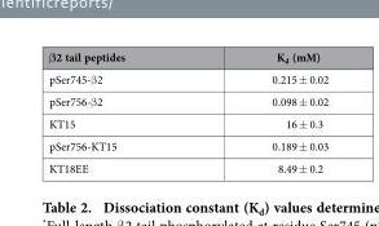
<table><thead><tr><td>β2 tail peptides</td><td>K<sub>d</sub> (mM)</td></tr></thead><tbody><tr><td>pSer745-β 2</td><td>0.215 ± 0.02</td></tr><tr><td>pSer756-β 2</td><td>0.098 ± 0.02</td></tr><tr><td>KT15</td><td>16 ± 0.3</td></tr><tr><td>pSer756-KT15</td><td>0.189 ± 0.03</td></tr><tr><td>KT18EE</td><td>8.49 ± 0.2</td></tr></tbody></table>